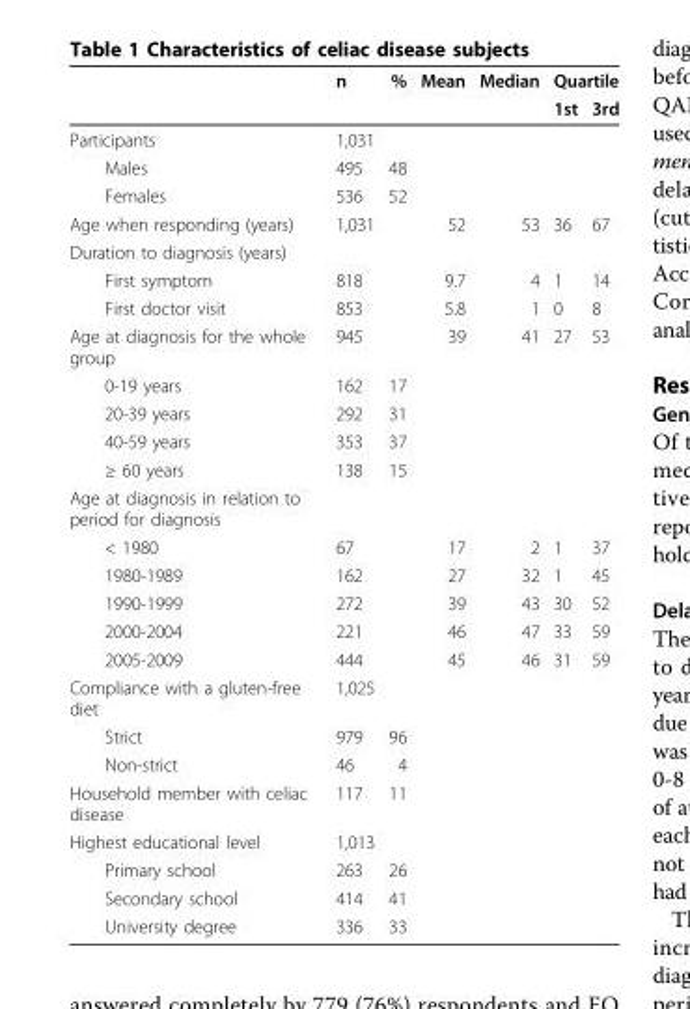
<table><thead><tr><td rowspan="2"></td><td rowspan="2">n</td><td rowspan="2">%</td><td rowspan="2">Mean</td><td rowspan="2">Median</td><td colspan="2">Quartile</td></tr><tr><td>1st</td><td>3rd</td></tr></thead><tbody><tr><td>Participants</td><td>1,031</td><td></td><td></td><td></td><td></td><td></td></tr><tr><td>Males</td><td>495</td><td>48</td><td></td><td></td><td></td><td></td></tr><tr><td>Females</td><td>536</td><td>52</td><td></td><td></td><td></td><td></td></tr><tr><td>Age when responding (years)</td><td>1,031</td><td></td><td>52</td><td>53</td><td>36</td><td>67</td></tr><tr><td colspan="7">Duration to diagnosis (years)</td></tr><tr><td>First symptom</td><td>818</td><td></td><td>9.7</td><td>4</td><td>1</td><td>14</td></tr><tr><td>First doctor visit</td><td>853</td><td></td><td>5.8</td><td>1</td><td>0</td><td>8</td></tr><tr><td>Age at diagnosis for the whole group</td><td>945</td><td></td><td>39</td><td>41</td><td>27</td><td>53</td></tr><tr><td>0-19 years</td><td>162</td><td>17</td><td></td><td></td><td></td><td></td></tr><tr><td>20-39 years</td><td>292</td><td>31</td><td></td><td></td><td></td><td></td></tr><tr><td>40-59 years</td><td>353</td><td>37</td><td></td><td></td><td></td><td></td></tr><tr><td>≥ 60 years</td><td>138</td><td>15</td><td></td><td></td><td></td><td></td></tr><tr><td colspan="7">Age at diagnosis in relation to period for diagnosis</td></tr><tr><td>&lt; 1980</td><td>67</td><td></td><td>17</td><td>2</td><td>1</td><td>37</td></tr><tr><td>1980-1989</td><td>162</td><td></td><td>27</td><td>32</td><td>1</td><td>45</td></tr><tr><td>1990-1999</td><td>272</td><td></td><td>39</td><td>43</td><td>30</td><td>52</td></tr><tr><td>2000-2004</td><td>221</td><td></td><td>46</td><td>47</td><td>33</td><td>59</td></tr><tr><td>2005-2009</td><td>444</td><td></td><td>45</td><td>46</td><td>31</td><td>59</td></tr><tr><td>Compliance with a gluten-free diet</td><td>1,025</td><td></td><td></td><td></td><td></td><td></td></tr><tr><td>Strict</td><td>979</td><td>96</td><td></td><td></td><td></td><td></td></tr><tr><td>Non-strict</td><td>46</td><td>4</td><td></td><td></td><td></td><td></td></tr><tr><td>Household member with celiac disease</td><td>117</td><td>11</td><td></td><td></td><td></td><td></td></tr><tr><td>Highest educational level</td><td>1,013</td><td></td><td></td><td></td><td></td><td></td></tr><tr><td>Primary school</td><td>263</td><td>26</td><td></td><td></td><td></td><td></td></tr><tr><td>Secondary school</td><td>414</td><td>41</td><td></td><td></td><td></td><td></td></tr><tr><td>University degree</td><td>336</td><td>33</td><td></td><td></td><td></td><td></td></tr></tbody></table>